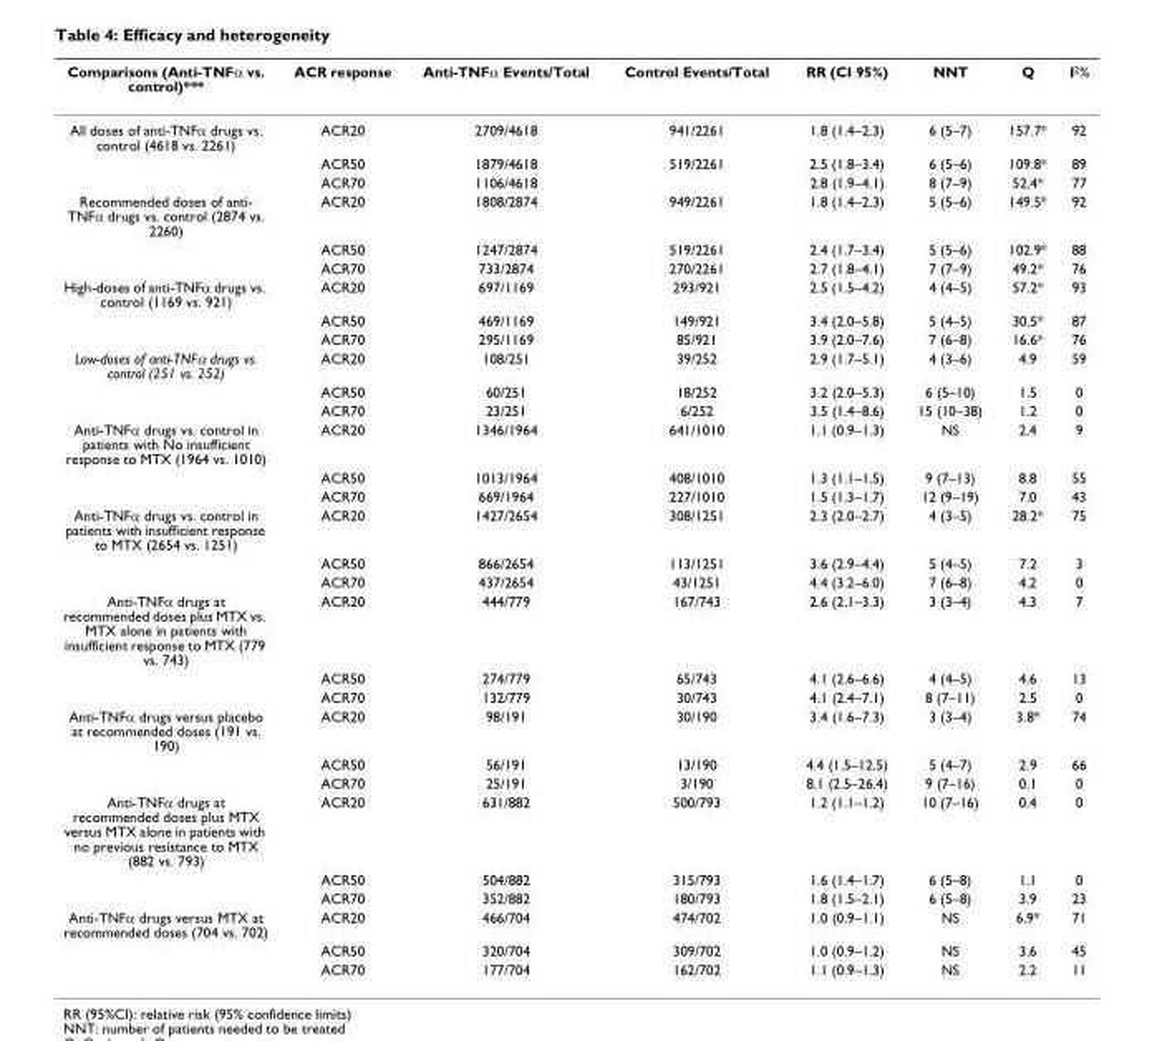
<table><thead><tr><td>Comparisons (Anti-TNFα vs. control)***</td><td>ACR response</td><td>Anti-TNFα Events/Total</td><td>Control Events/Total</td><td>RR (CI 95%)</td><td>NNT</td><td>Q</td><td>I<sup>2</sup>%</td></tr></thead><tbody><tr><td rowspan="3">All doses of anti-TNFα drugs vs. control (4618 vs. 2261)</td><td>ACR20</td><td>2709/4618</td><td>941/2261</td><td>1.8 (1.4–2.3)</td><td>6 (5–7)</td><td>157.7*</td><td>92</td></tr><tr><td>ACR50</td><td>1879/4618</td><td>519/2261</td><td>2.5 (1.8–3.4)</td><td>6 (5–6)</td><td>109.8*</td><td>89</td></tr><tr><td>ACR70</td><td>1106/4618</td><td></td><td>2.8 (1.9–4.1)</td><td>8 (7–9)</td><td>52.4*</td><td>77</td></tr><tr><td rowspan="3">Recommended doses of anti- TNFα drugs vs. control (2874 vs. 2260)</td><td>ACR20</td><td>1808/2874</td><td>949/2261</td><td>1.8 (1.4–2.3)</td><td>5 (5–6)</td><td>149.5*</td><td>92</td></tr><tr><td>ACR50</td><td>1247/2874</td><td>519/2261</td><td>2.4 (1.7–3.4)</td><td>5 (5–6)</td><td>102.9*</td><td>88</td></tr><tr><td>ACR70</td><td>733/2874</td><td>270/2261</td><td>2.7 (1.8–4.1)</td><td>7 (7–9)</td><td>49.2*</td><td>76</td></tr><tr><td rowspan="3">High-doses of anti-TNFα drugs vs. control (1169 vs. 921)</td><td>ACR20</td><td>697/1169</td><td>293/921</td><td>2.5 (1.5–4.2)</td><td>4 (4–5)</td><td>57.2*</td><td>93</td></tr><tr><td>ACR50</td><td>469/1169</td><td>149/921</td><td>3.4 (2.0–5.8)</td><td>5 (4–5)</td><td>30.5*</td><td>87</td></tr><tr><td>ACR70</td><td>295/1169</td><td>85/921</td><td>3.9 (2.0–7.6)</td><td>7 (6–8)</td><td>16.6*</td><td>76</td></tr><tr><td rowspan="3">Low-doses of anti-TNFα drugs vs. control (251 vs. 252)</td><td>ACR20</td><td>108/251</td><td>39/252</td><td>2.9 (1.7–5.1)</td><td>4 (3–6)</td><td>4.9</td><td>59</td></tr><tr><td>ACR50</td><td>60/251</td><td>18/252</td><td>3.2 (2.0–5.3)</td><td>6 (5–10)</td><td>1.5</td><td>0</td></tr><tr><td>ACR70</td><td>23/251</td><td>6/252</td><td>3.5 (1.4–8.6)</td><td>15 (10–38)</td><td>1.2</td><td>0</td></tr><tr><td rowspan="3">Anti-TNFα drugs vs. control in patients with No insufficient response to MTX (1964 vs. 1010)</td><td>ACR20</td><td>1346/1964</td><td>641/1010</td><td>1.1 (0.9–1.3)</td><td>NS</td><td>2.4</td><td>9</td></tr><tr><td>ACR50</td><td>1013/1964</td><td>408/1010</td><td>1.3 (1.1–1.5)</td><td>9 (7–13)</td><td>8.8</td><td>55</td></tr><tr><td>ACR70</td><td>669/1964</td><td>227/1010</td><td>1.5 (1.3–1.7)</td><td>12 (9–19)</td><td>7.0</td><td>43</td></tr><tr><td rowspan="3">Anti-TNFα drugs vs. control in patients with insufficient response to MTX (2654 vs. 1251)</td><td>ACR20</td><td>1427/2654</td><td>308/1251</td><td>2.3 (2.0–2.7)</td><td>4 (3–5)</td><td>28.2*</td><td>75</td></tr><tr><td>ACR50</td><td>866/2654</td><td>113/1251</td><td>3.6 (2.9–4.4)</td><td>5 (4–5)</td><td>7.2</td><td>3</td></tr><tr><td>ACR70</td><td>437/2654</td><td>43/1251</td><td>4.4 (3.2–6.0)</td><td>7 (6–8)</td><td>4.2</td><td>0</td></tr><tr><td rowspan="3">Anti-TNFα drugs at recommended doses plus MTX vs. MTX alone in patients with insufficient response to MTX (779 vs. 743)</td><td>ACR20</td><td>444/779</td><td>167/743</td><td>2.6 (2.1–3.3)</td><td>3 (3–4)</td><td>4.3</td><td>7</td></tr><tr><td>ACR50</td><td>274/779</td><td>65/743</td><td>4.1 (2.6–6.6)</td><td>4 (4–5)</td><td>4.6</td><td>13</td></tr><tr><td>ACR70</td><td>132/779</td><td>30/743</td><td>4.1 (2.4–7.1)</td><td>8 (7–11)</td><td>2.5</td><td>0</td></tr><tr><td rowspan="3">Anti-TNFα drugs versus placebo at recommended doses (191 vs. 190)</td><td>ACR20</td><td>98/191</td><td>30/190</td><td>3.4 (1.6–7.3)</td><td>3 (3–4)</td><td>3.8*</td><td>74</td></tr><tr><td>ACR50</td><td>56/191</td><td>13/190</td><td>4.4 (1.5–12.5)</td><td>5 (4–7)</td><td>2.9</td><td>66</td></tr><tr><td>ACR70</td><td>25/191</td><td>3/190</td><td>8.1 (2.5–26.4)</td><td>9 (7–16)</td><td>0.1</td><td>0</td></tr><tr><td rowspan="3">Anti-TNFα drugs at recommended doses plus MTX versus MTX alone in patients with no previous resistance to MTX (882 vs. 793)</td><td>ACR20</td><td>631/882</td><td>500/793</td><td>1.2 (1.1–1.2)</td><td>10 (7–16)</td><td>0.4</td><td>0</td></tr><tr><td>ACR50</td><td>504/882</td><td>315/793</td><td>1.6 (1.4–1.7)</td><td>6 (5–8)</td><td>1.1</td><td>0</td></tr><tr><td>ACR70</td><td>352/882</td><td>180/793</td><td>1.8 (1.5–2.1)</td><td>6 (5–8)</td><td>3.9</td><td>23</td></tr><tr><td rowspan="3">Anti-TNFα drugs versus MTX at recommended doses (704 vs. 702)</td><td>ACR20</td><td>466/704</td><td>474/702</td><td>1.0 (0.9–1.1)</td><td>NS</td><td>6.9*</td><td>71</td></tr><tr><td>ACR50</td><td>320/704</td><td>309/702</td><td>1.0 (0.9–1.2)</td><td>NS</td><td>3.6</td><td>45</td></tr><tr><td>ACR70</td><td>177/704</td><td>162/702</td><td>1.1 (0.9–1.3)</td><td>NS</td><td>2.2</td><td>11</td></tr></tbody></table>